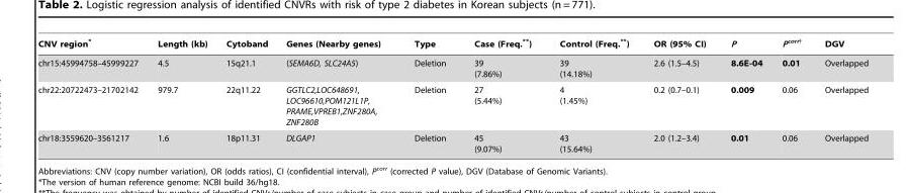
<table><thead><tr><td>CNV region*</td><td>Length (kb)</td><td>Cytoband</td><td>Genes (Nearby genes)</td><td>Type</td><td>Case (Freq.**)</td><td>Control (Freq.**)</td><td>OR (95% CI)</td><td>P</td><td>P<sup>corr</sup>†</td><td>DGV</td></tr></thead><tbody><tr><td>chr15:45994758–45999227</td><td>4.5</td><td>15q21.1</td><td>(SEMA6D, SLC24A5)</td><td>Deletion</td><td>39 (7.86%)</td><td>39 (14.18%)</td><td>2.6 (1.5–4.5)</td><td>8.6E-04</td><td>0.01</td><td>Overlapped</td></tr><tr><td>chr22:20722473–21702142</td><td>979.7</td><td>22q11.22</td><td>GGTLC2,LOC648691, LOC96610,POM121L1P, PRAME,VPREB1,ZNF280A, ZNF280B</td><td>Deletion</td><td>27 (5.44%)</td><td>4 (1.45%)</td><td>0.2 (0.7–0.1)</td><td>0.009</td><td>0.06</td><td>Overlapped</td></tr><tr><td>chr18:3559620–3561217</td><td>1.6</td><td>18p11.31</td><td>DLGAP1</td><td>Deletion</td><td>45 (9.07%)</td><td>43 (15.64%)</td><td>2.0 (1.2–3.4)</td><td>0.01</td><td>0.06</td><td>Overlapped</td></tr></tbody></table>